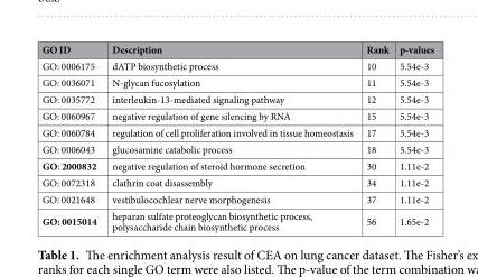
<table><thead><tr><td>GO ID</td><td>Description</td><td>Rank</td><td>p-values</td></tr></thead><tbody><tr><td>GO: 0006175</td><td>dATP biosynthetic process</td><td>10</td><td>5.54e-3</td></tr><tr><td>GO: 0036071</td><td>N-glycan fucosylation</td><td>11</td><td>5.54e-3</td></tr><tr><td>GO: 0035772</td><td>interleukin-13-mediated signaling pathway</td><td>12</td><td>5.54e-3</td></tr><tr><td>GO: 0060967</td><td>negative regulation of gene silencing by RNA</td><td>15</td><td>5.54e-3</td></tr><tr><td>GO: 0060784</td><td>regulation of cell proliferation involved in tissue homeostasis</td><td>17</td><td>5.54e-3</td></tr><tr><td>GO: 0006043</td><td>glucosamine catabolic process</td><td>18</td><td>5.54e-3</td></tr><tr><td>GO: 2000832</td><td>negative regulation of steroid hormone secretion</td><td>30</td><td>1.11e-2</td></tr><tr><td>GO: 0072318</td><td>clathrin coat disassembly</td><td>34</td><td>1.11e-2</td></tr><tr><td>GO: 0021648</td><td>vestibulocochlear nerve morphogenesis</td><td>37</td><td>1.11e-2</td></tr><tr><td>GO: 0015014</td><td>heparan sulfate proteoglycan biosynthetic process, polysaccharide chain biosynthetic process</td><td>56</td><td>1.65e-2</td></tr></tbody></table>